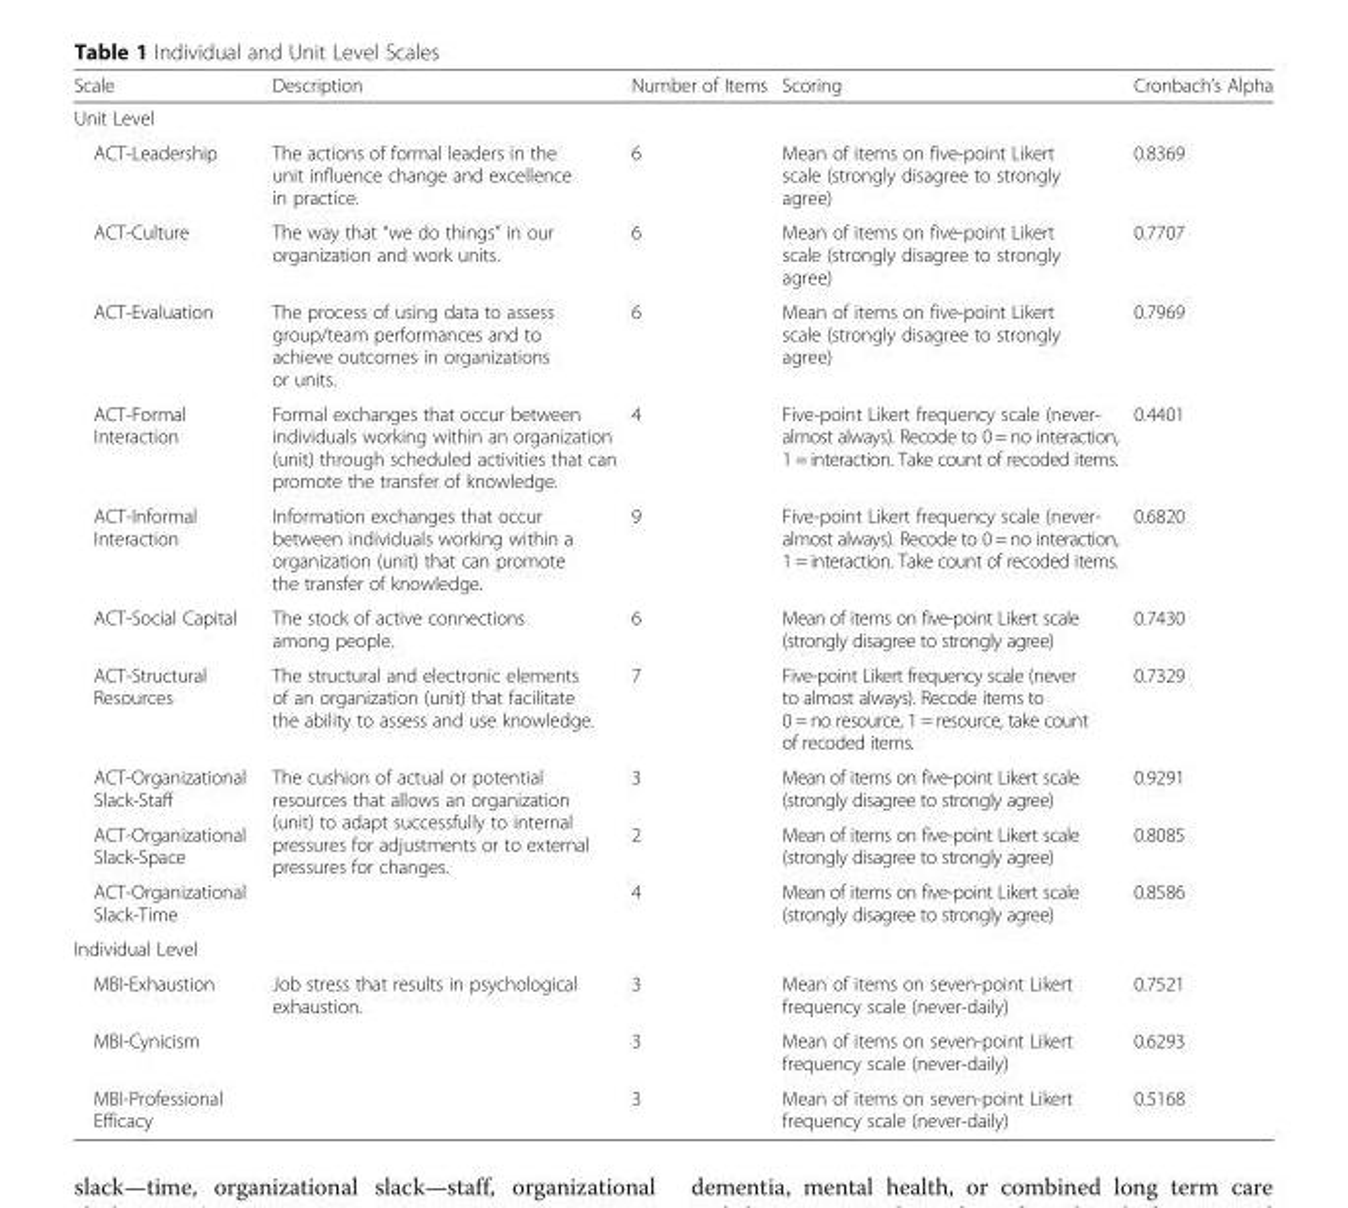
<table><thead><tr><td>Scale</td><td>Description</td><td>Number of Items</td><td>Scoring</td><td>Cronbach’s Alpha</td></tr></thead><tbody><tr><td colspan="5">Unit Level</td></tr><tr><td>ACT-Leadership</td><td>The actions of formal leaders in the unit influence change and excellence in practice.</td><td>6</td><td>Mean of items on five-point Likert scale (strongly disagree to strongly agree)</td><td>0.8369</td></tr><tr><td>ACT-Culture</td><td>The way that “we do things” in our organization and work units.</td><td>6</td><td>Mean of items on five-point Likert scale (strongly disagree to strongly agree)</td><td>0.7707</td></tr><tr><td>ACT-Evaluation</td><td>The process of using data to assess group/team performances and to achieve outcomes in organizations or units.</td><td>6</td><td>Mean of items on five-point Likert scale (strongly disagree to strongly agree)</td><td>0.7969</td></tr><tr><td>ACT-Formal Interaction</td><td>Formal exchanges that occur between individuals working within an organization (unit) through scheduled activities that can promote the transfer of knowledge.</td><td>4</td><td>Five-point Likert frequency scale (never- almost always). Recode to 0 = no interaction, 1 = interaction. Take count of recoded items.</td><td>0.4401</td></tr><tr><td>ACT-Informal Interaction</td><td>Information exchanges that occur between individuals working within a organization (unit) that can promote the transfer of knowledge.</td><td>9</td><td>Five-point Likert frequency scale (never- almost always). Recode to 0 = no interaction, 1 = interaction. Take count of recoded items.</td><td>0.6820</td></tr><tr><td>ACT-Social Capital</td><td>The stock of active connections among people.</td><td>6</td><td>Mean of items on five-point Likert scale (strongly disagree to strongly agree)</td><td>0.7430</td></tr><tr><td>ACT-Structural Resources</td><td>The structural and electronic elements of an organization (unit) that facilitate the ability to assess and use knowledge.</td><td>7</td><td>Five-point Likert frequency scale (never to almost always). Recode items to 0 = no resource, 1 = resource, take count of recoded items.</td><td>0.7329</td></tr><tr><td>ACT-Organizational Slack-Staff</td><td rowspan="3">The cushion of actual or potential resources that allows an organization (unit) to adapt successfully to internal pressures for adjustments or to external pressures for changes.</td><td>3</td><td>Mean of items on five-point Likert scale (strongly disagree to strongly agree)</td><td>0.9291</td></tr><tr><td>ACT-Organizational Slack-Space</td><td>2</td><td>Mean of items on five-point Likert scale (strongly disagree to strongly agree)</td><td>0.8085</td></tr><tr><td>ACT-Organizational Slack-Time</td><td>4</td><td>Mean of items on five-point Likert scale (strongly disagree to strongly agree)</td><td>0.8586</td></tr><tr><td colspan="5">Individual Level</td></tr><tr><td>MBI-Exhaustion</td><td rowspan="3">Job stress that results in psychological exhaustion.</td><td>3</td><td>Mean of items on seven-point Likert frequency scale (never-daily)</td><td>0.7521</td></tr><tr><td>MBI-Cynicism</td><td>3</td><td>Mean of items on seven-point Likert frequency scale (never-daily)</td><td>0.6293</td></tr><tr><td>MBI-Professional Efficacy</td><td>3</td><td>Mean of items on seven-point Likert frequency scale (never-daily)</td><td>0.5168</td></tr></tbody></table>